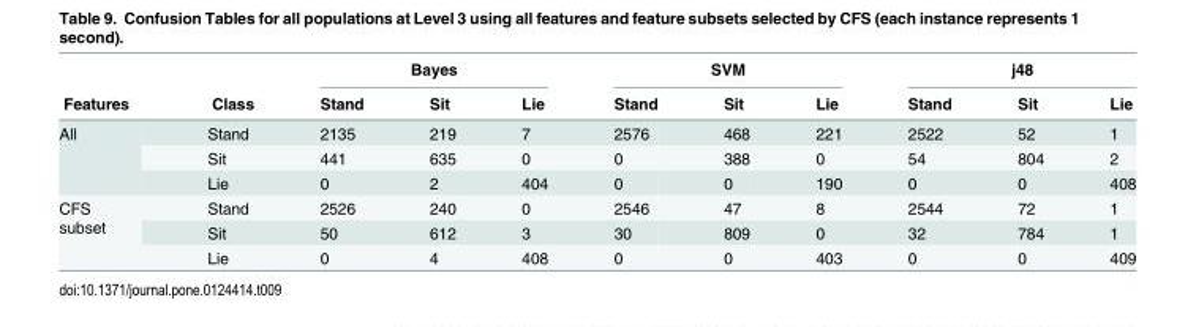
<table><thead><tr><td rowspan="2">Features</td><td rowspan="2">Class</td><td colspan="3">Bayes</td><td colspan="3">SVM</td><td colspan="3">j48</td></tr><tr><td>Stand</td><td>Sit</td><td>Lie</td><td>Stand</td><td>Sit</td><td>Lie</td><td>Stand</td><td>Sit</td><td>Lie</td></tr></thead><tbody><tr><td rowspan="3">All</td><td>Stand</td><td>2135</td><td>219</td><td>7</td><td>2576</td><td>468</td><td>221</td><td>2522</td><td>52</td><td>1</td></tr><tr><td>Sit</td><td>441</td><td>635</td><td>0</td><td>0</td><td>388</td><td>0</td><td>54</td><td>804</td><td>2</td></tr><tr><td>Lie</td><td>0</td><td>2</td><td>404</td><td>0</td><td>0</td><td>190</td><td>0</td><td>0</td><td>408</td></tr><tr><td rowspan="3">CFS subset</td><td>Stand</td><td>2526</td><td>240</td><td>0</td><td>2546</td><td>47</td><td>8</td><td>2544</td><td>72</td><td>1</td></tr><tr><td>Sit</td><td>50</td><td>612</td><td>3</td><td>30</td><td>809</td><td>0</td><td>32</td><td>784</td><td>1</td></tr><tr><td>Lie</td><td>0</td><td>4</td><td>408</td><td>0</td><td>0</td><td>403</td><td>0</td><td>0</td><td>409</td></tr></tbody></table>